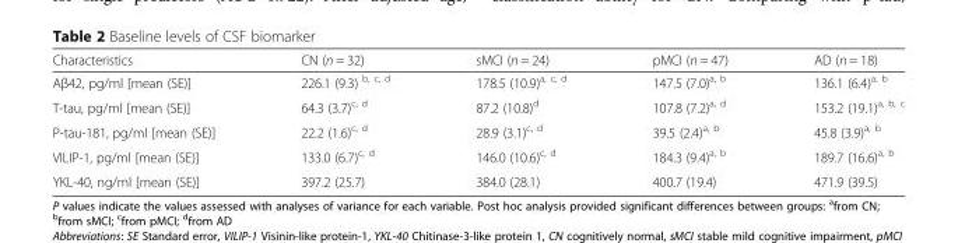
<table><thead><tr><td>Characteristics</td><td>CN (n = 32)</td><td>sMCI (n = 24)</td><td>pMCI (n = 47)</td><td>AD (n = 18)</td></tr></thead><tbody><tr><td>Aβ42, pg/ml [mean (SE)]</td><td>226.1 (9.3) <sup>b, c, d</sup></td><td>178.5 (10.9)<sup>a, c, d</sup></td><td>147.5 (7.0)<sup>a, b</sup></td><td>136.1 (6.4)<sup>a, b</sup></td></tr><tr><td>T-tau, pg/ml [mean (SE)]</td><td>64.3 (3.7)<sup>c, d</sup></td><td>87.2 (10.8)<sup>d</sup></td><td>107.8 (7.2)<sup>a, d</sup></td><td>153.2 (19.1)<sup>a, b, c</sup></td></tr><tr><td>P-tau-181, pg/ml [mean (SE)]</td><td>22.2 (1.6)<sup>c, d</sup></td><td>28.9 (3.1)<sup>c, d</sup></td><td>39.5 (2.4)<sup>a, b</sup></td><td>45.8 (3.9)<sup>a, b</sup></td></tr><tr><td>VILIP-1, pg/ml [mean (SE)]</td><td>133.0 (6.7)<sup>c, d</sup></td><td>146.0 (10.6)<sup>c, d</sup></td><td>184.3 (9.4)<sup>a, b</sup></td><td>189.7 (16.6)<sup>a, b</sup></td></tr><tr><td>YKL-40, ng/ml [mean (SE)]</td><td>397.2 (25.7)</td><td>384.0 (28.1)</td><td>400.7 (19.4)</td><td>471.9 (39.5)</td></tr></tbody></table>